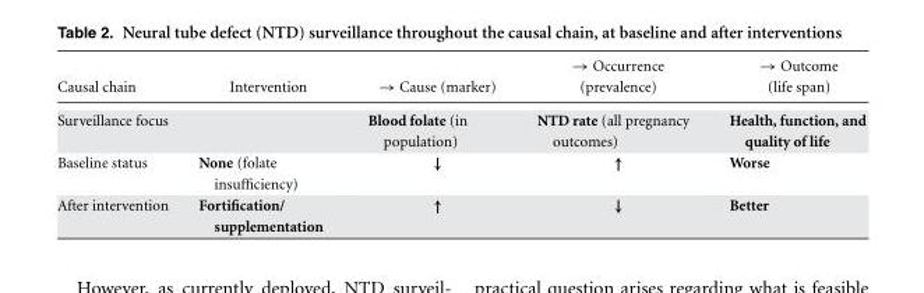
<table><thead><tr><td>Causal chain</td><td>Intervention</td><td>→ Cause (marker)</td><td>→ Occurrence (prevalence)</td><td>→ Outcome (life span)</td></tr></thead><tbody><tr><td>Surveillance focus</td><td></td><td>Blood folate (in population)</td><td>NTD rate (all pregnancy outcomes)</td><td>Health, function, and quality of life</td></tr><tr><td>Baseline status</td><td>None (folate insufficiency)</td><td>↓</td><td>↑</td><td>Worse</td></tr><tr><td>After intervention</td><td>Fortification/ supplementation</td><td>↑</td><td>↓</td><td>Better</td></tr></tbody></table>